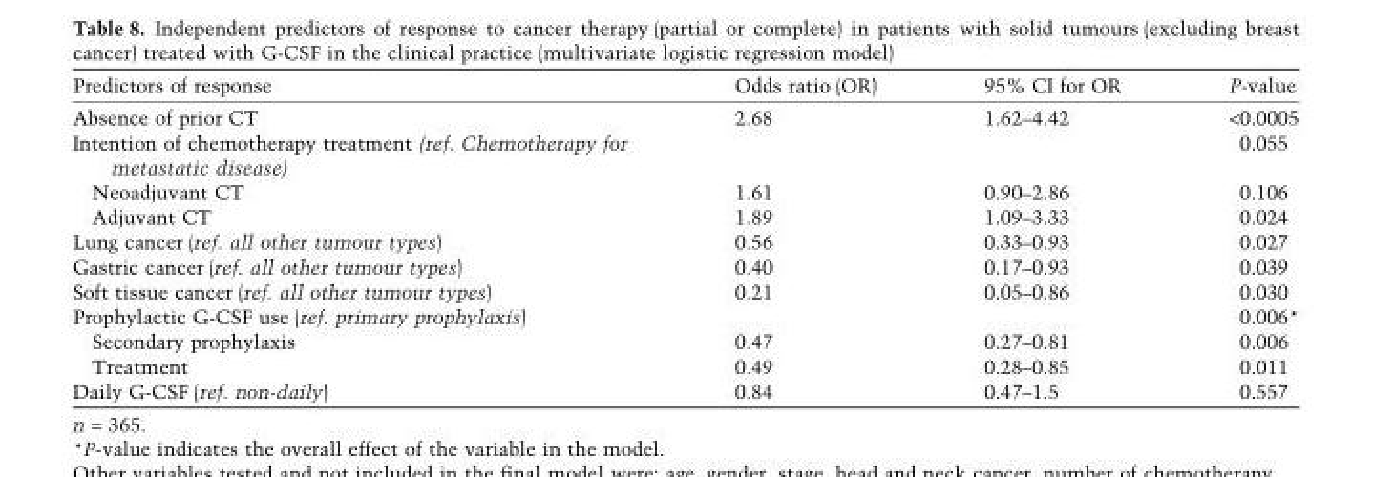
<table><thead><tr><td>Predictors of response</td><td>Odds ratio (OR)</td><td>95% CI for OR</td><td>P-value</td></tr></thead><tbody><tr><td>Absence of prior CT</td><td>2.68</td><td>1.62–4.42</td><td>&lt;0.0005</td></tr><tr><td>Intention of chemotherapy treatment (ref. Chemotherapy for metastatic disease)</td><td></td><td></td><td>0.055</td></tr><tr><td>Neoadjuvant CT</td><td>1.61</td><td>0.90–2.86</td><td>0.106</td></tr><tr><td>Adjuvant CT</td><td>1.89</td><td>1.09–3.33</td><td>0.024</td></tr><tr><td>Lung cancer (ref. all other tumour types)</td><td>0.56</td><td>0.33–0.93</td><td>0.027</td></tr><tr><td>Gastric cancer (ref. all other tumour types)</td><td>0.40</td><td>0.17–0.93</td><td>0.039</td></tr><tr><td>Soft tissue cancer (ref. all other tumour types)</td><td>0.21</td><td>0.05–0.86</td><td>0.030</td></tr><tr><td>Prophylactic G-CSF use (ref. primary prophylaxis)</td><td></td><td></td><td>0.006*</td></tr><tr><td>Secondary prophylaxis</td><td>0.47</td><td>0.27–0.81</td><td>0.006</td></tr><tr><td>Treatment</td><td>0.49</td><td>0.28–0.85</td><td>0.011</td></tr><tr><td>Daily G-CSF (ref. non-daily)</td><td>0.84</td><td>0.47–1.5</td><td>0.557</td></tr></tbody></table>